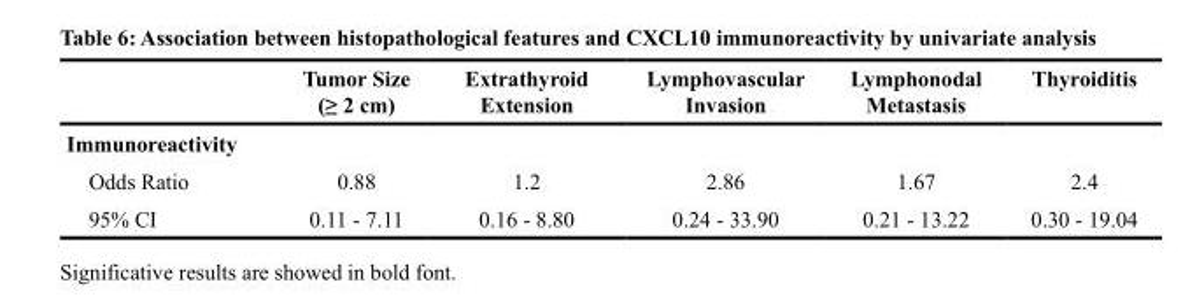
<table><thead><tr><td></td><td>Tumor Size (≥ 2 cm)</td><td>Extrathyroid Extension</td><td>Lymphovascular Invasion</td><td>Lymphonodal Metastasis</td><td>Thyroiditis</td></tr></thead><tbody><tr><td colspan="6">Immunoreactivity</td></tr><tr><td>Odds Ratio</td><td>0.88</td><td>1.2</td><td>2.86</td><td>1.67</td><td>2.4</td></tr><tr><td>95% CI</td><td>0.11 - 7.11</td><td>0.16 - 8.80</td><td>0.24 - 33.90</td><td>0.21 - 13.22</td><td>0.30 - 19.04</td></tr></tbody></table>